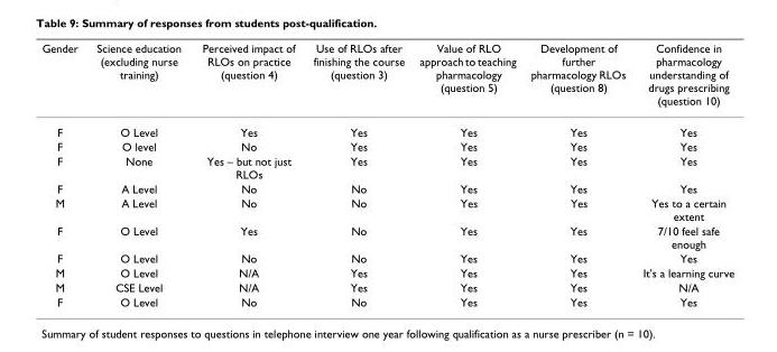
<table><thead><tr><td>Gender</td><td>Science education (excluding nurse training)</td><td>Perceived impact of RLOs on practice (question 4)</td><td>Use of RLOs after finishing the course (question 3)</td><td>Value of RLO approach to teaching pharmacology (question 5)</td><td>Development of further pharmacology RLOs (question 8)</td><td>Confidence in pharmacology understanding of drugs prescribing (question 10)</td></tr></thead><tbody><tr><td>F</td><td>O Level</td><td>Yes</td><td>Yes</td><td>Yes</td><td>Yes</td><td>Yes</td></tr><tr><td>F</td><td>O level</td><td>No</td><td>Yes</td><td>Yes</td><td>Yes</td><td>Yes</td></tr><tr><td>F</td><td>None</td><td>Yes – but not just RLOs</td><td>Yes</td><td>Yes</td><td>Yes</td><td>Yes</td></tr><tr><td>F</td><td>A Level</td><td>No</td><td>No</td><td>Yes</td><td>Yes</td><td>Yes</td></tr><tr><td>M</td><td>A Level</td><td>No</td><td>No</td><td>Yes</td><td>Yes</td><td>Yes to a certain extent</td></tr><tr><td>F</td><td>O Level</td><td>Yes</td><td>No</td><td>Yes</td><td>Yes</td><td>7/10 feel safe enough</td></tr><tr><td>F</td><td>O Level</td><td>No</td><td>No</td><td>Yes</td><td>Yes</td><td>Yes</td></tr><tr><td>M</td><td>O Level</td><td>N/A</td><td>Yes</td><td>Yes</td><td>Yes</td><td>It&#x27;s a learning curve</td></tr><tr><td>M</td><td>CSE Level</td><td>N/A</td><td>Yes</td><td>Yes</td><td>Yes</td><td>N/A</td></tr><tr><td>F</td><td>O Level</td><td>No</td><td>No</td><td>Yes</td><td>Yes</td><td>Yes</td></tr></tbody></table>